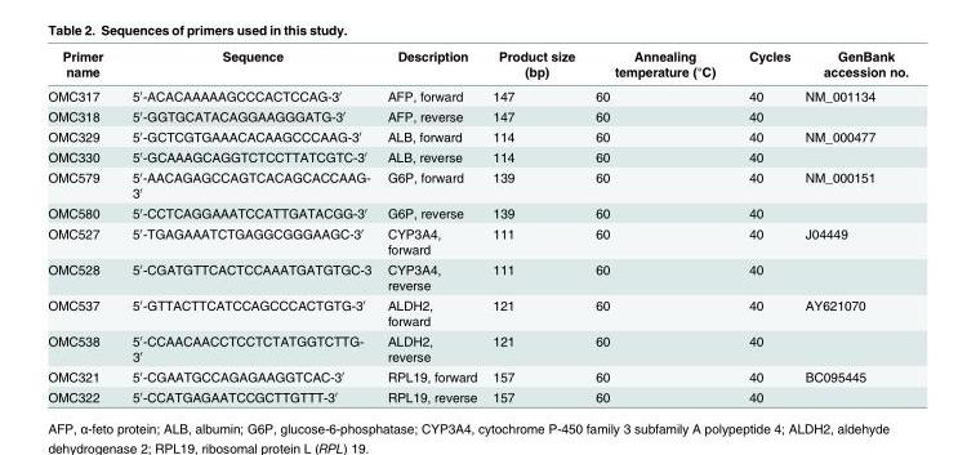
<table><thead><tr><td>Primer name</td><td>Sequence</td><td>Description</td><td>Product size (bp)</td><td>Annealing temperature (°C)</td><td>Cycles</td><td>GenBank accession no.</td></tr></thead><tbody><tr><td>OMC317</td><td>5′-ACACAAAAAGCCCACTCCAG-3′</td><td>AFP, forward</td><td>147</td><td>60</td><td>40</td><td>NM_001134</td></tr><tr><td>OMC318</td><td>5′-GGTGCATACAGGAAGGGATG-3′</td><td>AFP, reverse</td><td>147</td><td>60</td><td>40</td><td></td></tr><tr><td>OMC329</td><td>5′-GCTCGTGAAACACAAGCCCAAG-3′</td><td>ALB, forward</td><td>114</td><td>60</td><td>40</td><td>NM_000477</td></tr><tr><td>OMC330</td><td>5′-GCAAAGCAGGTCTCCTTATCGTC-3′</td><td>ALB, reverse</td><td>114</td><td>60</td><td>40</td><td></td></tr><tr><td>OMC579</td><td>5′-AACAGAGCCAGTCACAGCACCAAG- 3′</td><td>G6P, forward</td><td>139</td><td>60</td><td>40</td><td>NM_000151</td></tr><tr><td>OMC580</td><td>5′-CCTCAGGAAATCCATTGATACGG-3′</td><td>G6P, reverse</td><td>139</td><td>60</td><td>40</td><td></td></tr><tr><td>OMC527</td><td>5′-TGAGAAATCTGAGGCGGGAAGC-3′</td><td>CYP3A4, forward</td><td>111</td><td>60</td><td>40</td><td>J04449</td></tr><tr><td>OMC528</td><td>5′-CGATGTTCACTCCAAATGATGTGC-3</td><td>CYP3A4, reverse</td><td>111</td><td>60</td><td>40</td><td></td></tr><tr><td>OMC537</td><td>5′-GTTACTTCATCCAGCCCACTGTG-3′</td><td>ALDH2, forward</td><td>121</td><td>60</td><td>40</td><td>AY621070</td></tr><tr><td>OMC538</td><td>5′-CCAACAACCTCCTCTATGGTCTTG- 3′</td><td>ALDH2, reverse</td><td>121</td><td>60</td><td>40</td><td></td></tr><tr><td>OMC321</td><td>5′-CGAATGCCAGAGAAGGTCAC-3′</td><td>RPL19, forward</td><td>157</td><td>60</td><td>40</td><td>BC095445</td></tr><tr><td>OMC322</td><td>5′-CCATGAGAATCCGCTTGTTT-3′</td><td>RPL19, reverse</td><td>157</td><td>60</td><td>40</td><td></td></tr></tbody></table>